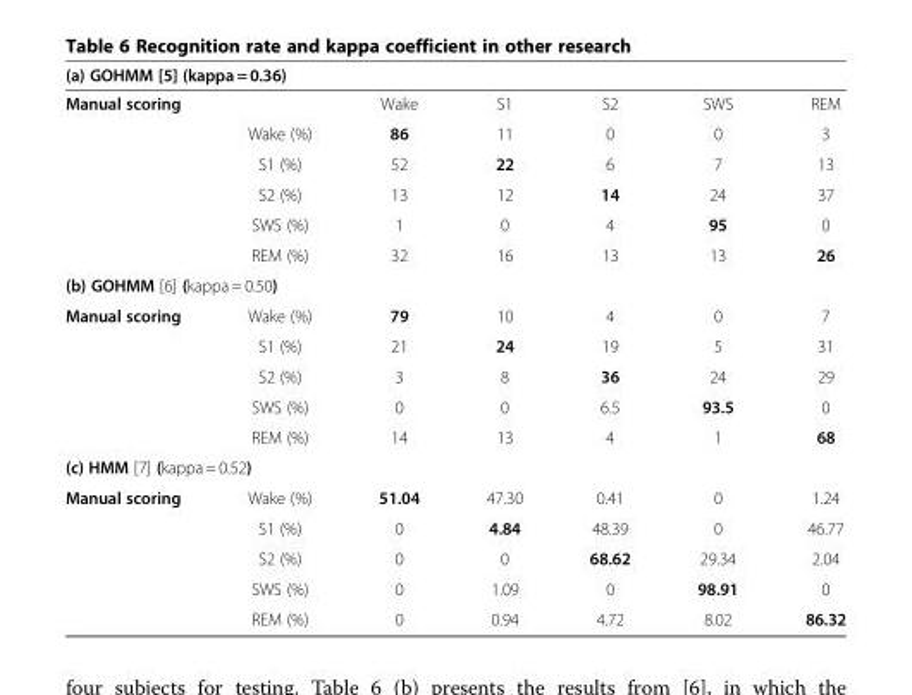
<table><thead><tr><td colspan="7">(a) GOHMM [5] (kappa = 0.36)</td></tr><tr><td>Manual scoring</td><td></td><td>Wake</td><td>S1</td><td>S2</td><td>SWS</td><td>REM</td></tr></thead><tbody><tr><td></td><td>Wake (%)</td><td>86</td><td>11</td><td>0</td><td>0</td><td>3</td></tr><tr><td></td><td>S1 (%)</td><td>52</td><td>22</td><td>6</td><td>7</td><td>13</td></tr><tr><td></td><td>S2 (%)</td><td>13</td><td>12</td><td>14</td><td>24</td><td>37</td></tr><tr><td></td><td>SWS (%)</td><td>1</td><td>0</td><td>4</td><td>95</td><td>0</td></tr><tr><td></td><td>REM (%)</td><td>32</td><td>16</td><td>13</td><td>13</td><td>26</td></tr><tr><td colspan="7">(b) GOHMM [6] (kappa = 0.50)</td></tr><tr><td rowspan="5">Manual scoring</td><td>Wake (%)</td><td>79</td><td>10</td><td>4</td><td>0</td><td>7</td></tr><tr><td>S1 (%)</td><td>21</td><td>24</td><td>19</td><td>5</td><td>31</td></tr><tr><td>S2 (%)</td><td>3</td><td>8</td><td>36</td><td>24</td><td>29</td></tr><tr><td>SWS (%)</td><td>0</td><td>0</td><td>6.5</td><td>93.5</td><td>0</td></tr><tr><td>REM (%)</td><td>14</td><td>13</td><td>4</td><td>1</td><td>68</td></tr><tr><td colspan="7">(c) HMM [7] (kappa = 0.52)</td></tr><tr><td rowspan="5">Manual scoring</td><td>Wake (%)</td><td>51.04</td><td>47.30</td><td>0.41</td><td>0</td><td>1.24</td></tr><tr><td>S1 (%)</td><td>0</td><td>4.84</td><td>48.39</td><td>0</td><td>46.77</td></tr><tr><td>S2 (%)</td><td>0</td><td>0</td><td>68.62</td><td>29.34</td><td>2.04</td></tr><tr><td>SWS (%)</td><td>0</td><td>1.09</td><td>0</td><td>98.91</td><td>0</td></tr><tr><td>REM (%)</td><td>0</td><td>0.94</td><td>4.72</td><td>8.02</td><td>86.32</td></tr></tbody></table>